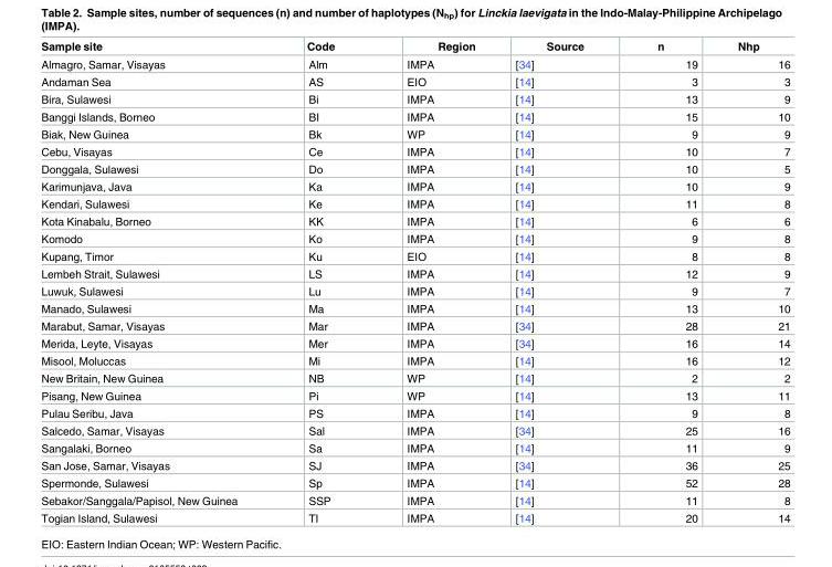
<table><thead><tr><td>Sample site</td><td>Code</td><td>Region</td><td>Source</td><td>n</td><td>Nhp</td></tr></thead><tbody><tr><td>Almagro, Samar, Visayas</td><td>Alm</td><td>IMPA</td><td>[34]</td><td>19</td><td>16</td></tr><tr><td>Andaman Sea</td><td>AS</td><td>EIO</td><td>[14]</td><td>3</td><td>3</td></tr><tr><td>Bira, Sulawesi</td><td>Bi</td><td>IMPA</td><td>[14]</td><td>13</td><td>9</td></tr><tr><td>Banggi Islands, Borneo</td><td>BI</td><td>IMPA</td><td>[14]</td><td>15</td><td>10</td></tr><tr><td>Biak, New Guinea</td><td>Bk</td><td>WP</td><td>[14]</td><td>9</td><td>9</td></tr><tr><td>Cebu, Visayas</td><td>Ce</td><td>IMPA</td><td>[14]</td><td>10</td><td>7</td></tr><tr><td>Donggala, Sulawesi</td><td>Do</td><td>IMPA</td><td>[14]</td><td>10</td><td>5</td></tr><tr><td>Karimunjava, Java</td><td>Ka</td><td>IMPA</td><td>[14]</td><td>10</td><td>9</td></tr><tr><td>Kendari, Sulawesi</td><td>Ke</td><td>IMPA</td><td>[14]</td><td>11</td><td>8</td></tr><tr><td>Kota Kinabalu, Borneo</td><td>KK</td><td>IMPA</td><td>[14]</td><td>6</td><td>6</td></tr><tr><td>Komodo</td><td>Ko</td><td>IMPA</td><td>[14]</td><td>9</td><td>8</td></tr><tr><td>Kupang, Timor</td><td>Ku</td><td>EIO</td><td>[14]</td><td>8</td><td>8</td></tr><tr><td>Lembeh Strait, Sulawesi</td><td>LS</td><td>IMPA</td><td>[14]</td><td>12</td><td>9</td></tr><tr><td>Luwuk, Sulawesi</td><td>Lu</td><td>IMPA</td><td>[14]</td><td>9</td><td>7</td></tr><tr><td>Manado, Sulawesi</td><td>Ma</td><td>IMPA</td><td>[14]</td><td>13</td><td>10</td></tr><tr><td>Marabut, Samar, Visayas</td><td>Mar</td><td>IMPA</td><td>[34]</td><td>28</td><td>21</td></tr><tr><td>Merida, Leyte, Visayas</td><td>Mer</td><td>IMPA</td><td>[34]</td><td>16</td><td>14</td></tr><tr><td>Misool, Moluccas</td><td>Mi</td><td>IMPA</td><td>[14]</td><td>16</td><td>12</td></tr><tr><td>New Britain, New Guinea</td><td>NB</td><td>WP</td><td>[14]</td><td>2</td><td>2</td></tr><tr><td>Pisang, New Guinea</td><td>Pi</td><td>WP</td><td>[14]</td><td>13</td><td>11</td></tr><tr><td>Pulau Seribu, Java</td><td>PS</td><td>IMPA</td><td>[14]</td><td>9</td><td>8</td></tr><tr><td>Salcedo, Samar, Visayas</td><td>Sal</td><td>IMPA</td><td>[34]</td><td>25</td><td>16</td></tr><tr><td>Sangalaki, Borneo</td><td>Sa</td><td>IMPA</td><td>[14]</td><td>11</td><td>9</td></tr><tr><td>San Jose, Samar, Visayas</td><td>SJ</td><td>IMPA</td><td>[34]</td><td>36</td><td>25</td></tr><tr><td>Spermonde, Sulawesi</td><td>Sp</td><td>IMPA</td><td>[14]</td><td>52</td><td>28</td></tr><tr><td>Sebakor/Sanggala/Papisol, New Guinea</td><td>SSP</td><td>IMPA</td><td>[14]</td><td>11</td><td>8</td></tr><tr><td>Togian Island, Sulawesi</td><td>TI</td><td>IMPA</td><td>[14]</td><td>20</td><td>14</td></tr></tbody></table>